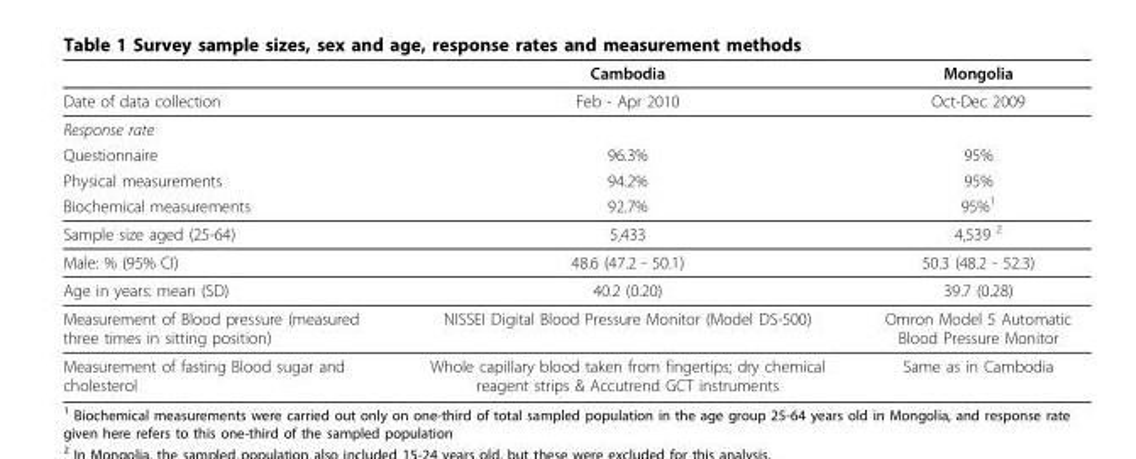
<table><thead><tr><td></td><td>Cambodia</td><td>Mongolia</td></tr></thead><tbody><tr><td>Date of data collection</td><td>Feb - Apr 2010</td><td>Oct-Dec 2009</td></tr><tr><td colspan="3">Response rate</td></tr><tr><td>Questionnaire</td><td>96.3%</td><td>95%</td></tr><tr><td>Physical measurements</td><td>94.2%</td><td>95%</td></tr><tr><td>Biochemical measurements</td><td>92.7%</td><td>95%<sup>1</sup></td></tr><tr><td>Sample size aged (25-64)</td><td>5,433</td><td>4,539 <sup>2</sup></td></tr><tr><td>Male: % (95% CI)</td><td>48.6 (47.2 - 50.1)</td><td>50.3 (48.2 - 52.3)</td></tr><tr><td>Age in years: mean (SD)</td><td>40.2 (0.20)</td><td>39.7 (0.28)</td></tr><tr><td>Measurement of Blood pressure (measured three times in sitting position)</td><td>NISSEI Digital Blood Pressure Monitor (Model DS-500)</td><td>Omron Model 5 Automatic Blood Pressure Monitor</td></tr><tr><td>Measurement of fasting Blood sugar and cholesterol</td><td>Whole capillary blood taken from fingertips; dry chemical reagent strips &amp; Accutrend GCT instruments</td><td>Same as in Cambodia</td></tr></tbody></table>